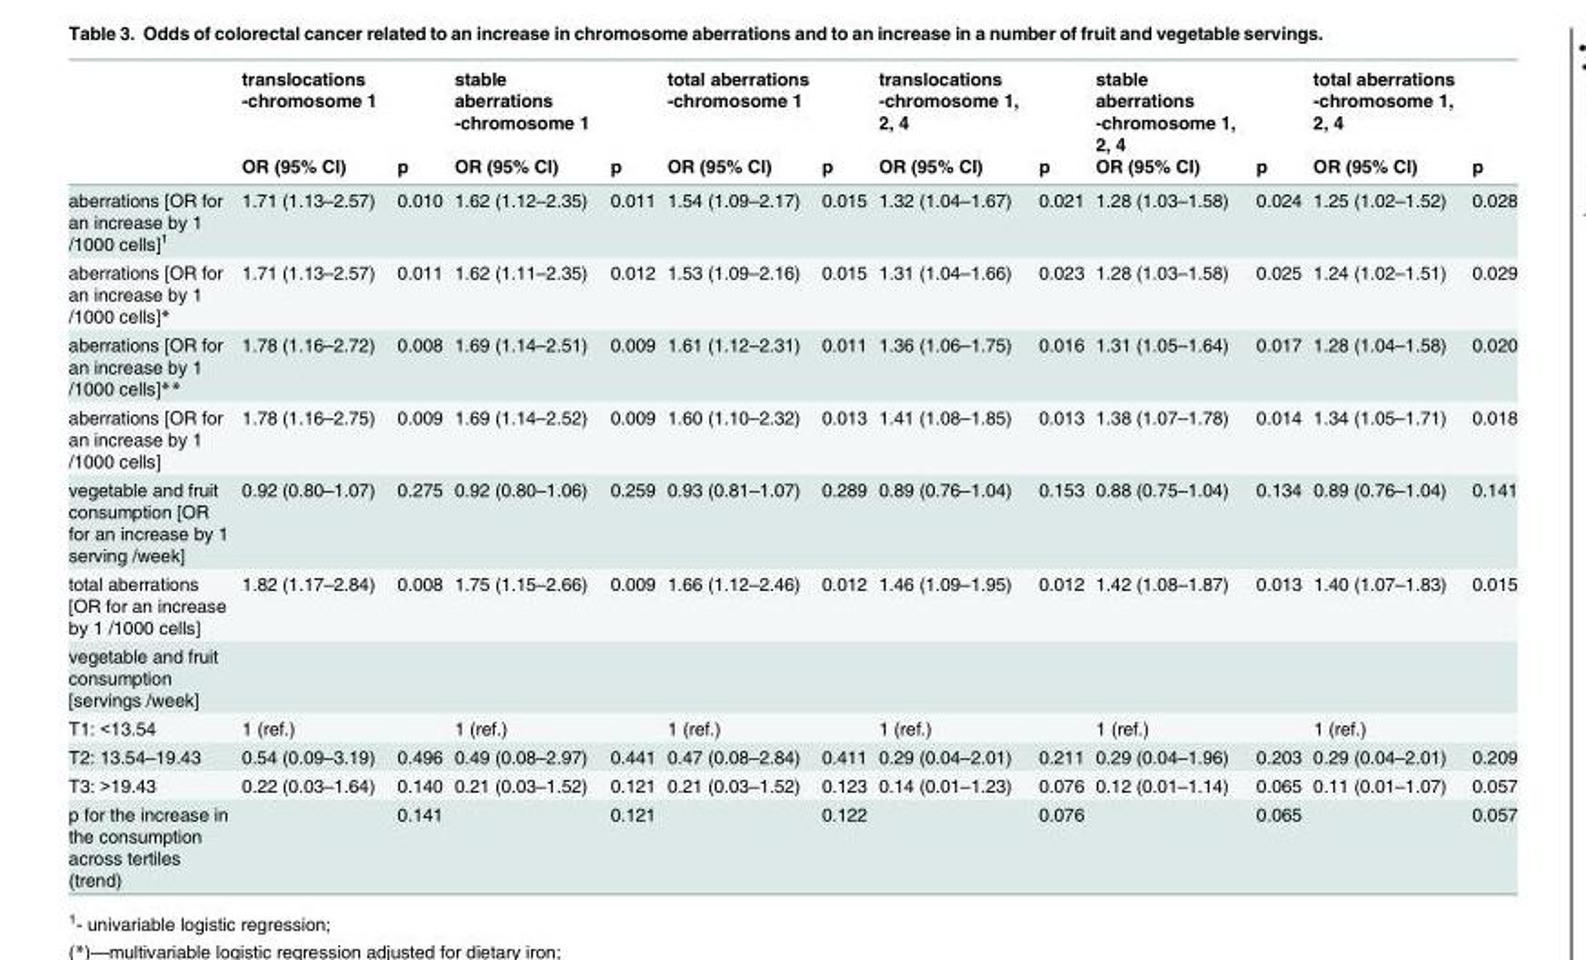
<table><thead><tr><td rowspan="2"></td><td rowspan="2">translocations -chromosome 1 OR (95% CI)</td><td rowspan="2">p</td><td rowspan="2">stable aberrations -chromosome 1 OR (95% CI)</td><td rowspan="2">p</td><td rowspan="2">total aberrations -chromosome 1 OR (95% CI)</td><td rowspan="2">p</td><td rowspan="2">translocations -chromosome 1, 2, 4 OR (95% CI)</td><td rowspan="2">p</td><td rowspan="2">stable aberrations -chromosome 1, 2, 4 OR (95% CI)</td><td rowspan="2">p</td><td rowspan="2">total aberrations -chromosome 1, 2, 4 OR (95% CI)</td><td rowspan="2">p</td></tr><tr></tr></thead><tbody><tr><td>aberrations [OR for an increase by 1 /1000 cells]<sup>1</sup></td><td>1.71 (1.13–2.57)</td><td>0.010</td><td>1.62 (1.12–2.35)</td><td>0.011</td><td>1.54 (1.09–2.17)</td><td>0.015</td><td>1.32 (1.04–1.67)</td><td>0.021</td><td>1.28 (1.03–1.58)</td><td>0.024</td><td>1.25 (1.02–1.52)</td><td>0.028</td></tr><tr><td>aberrations [OR for an increase by 1 /1000 cells]*</td><td>1.71 (1.13–2.57)</td><td>0.011</td><td>1.62 (1.11–2.35)</td><td>0.012</td><td>1.53 (1.09–2.16)</td><td>0.015</td><td>1.31 (1.04–1.66)</td><td>0.023</td><td>1.28 (1.03–1.58)</td><td>0.025</td><td>1.24 (1.02–1.51)</td><td>0.029</td></tr><tr><td>aberrations [OR for an increase by 1 /1000 cells]**</td><td>1.78 (1.16–2.72)</td><td>0.008</td><td>1.69 (1.14–2.51)</td><td>0.009</td><td>1.61 (1.12–2.31)</td><td>0.011</td><td>1.36 (1.06–1.75)</td><td>0.016</td><td>1.31 (1.05–1.64)</td><td>0.017</td><td>1.28 (1.04–1.58)</td><td>0.020</td></tr><tr><td>aberrations [OR for an increase by 1 /1000 cells]</td><td>1.78 (1.16–2.75)</td><td>0.009</td><td>1.69 (1.14–2.52)</td><td>0.009</td><td>1.60 (1.10–2.32)</td><td>0.013</td><td>1.41 (1.08–1.85)</td><td>0.013</td><td>1.38 (1.07–1.78)</td><td>0.014</td><td>1.34 (1.05–1.71)</td><td>0.018</td></tr><tr><td>vegetable and fruit consumption [OR for an increase by 1 serving /week]</td><td>0.92 (0.80–1.07)</td><td>0.275</td><td>0.92 (0.80–1.06)</td><td>0.259</td><td>0.93 (0.81–1.07)</td><td>0.289</td><td>0.89 (0.76–1.04)</td><td>0.153</td><td>0.88 (0.75–1.04)</td><td>0.134</td><td>0.89 (0.76–1.04)</td><td>0.141</td></tr><tr><td>total aberrations [OR for an increase by 1 /1000 cells]</td><td>1.82 (1.17–2.84)</td><td>0.008</td><td>1.75 (1.15–2.66)</td><td>0.009</td><td>1.66 (1.12–2.46)</td><td>0.012</td><td>1.46 (1.09–1.95)</td><td>0.012</td><td>1.42 (1.08–1.87)</td><td>0.013</td><td>1.40 (1.07–1.83)</td><td>0.015</td></tr><tr><td colspan="13">vegetable and fruit consumption [servings /week]</td></tr><tr><td>T1: &lt;13.54</td><td>1 (ref.)</td><td></td><td>1 (ref.)</td><td></td><td>1 (ref.)</td><td></td><td>1 (ref.)</td><td></td><td>1 (ref.)</td><td></td><td>1 (ref.)</td><td></td></tr><tr><td>T2: 13.54–19.43</td><td>0.54 (0.09–3.19)</td><td>0.496</td><td>0.49 (0.08–2.97)</td><td>0.441</td><td>0.47 (0.08–2.84)</td><td>0.411</td><td>0.29 (0.04–2.01)</td><td>0.211</td><td>0.29 (0.04–1.96)</td><td>0.203</td><td>0.29 (0.04–2.01)</td><td>0.209</td></tr><tr><td>T3: &gt;19.43</td><td>0.22 (0.03–1.64)</td><td>0.140</td><td>0.21 (0.03–1.52)</td><td>0.121</td><td>0.21 (0.03–1.52)</td><td>0.123</td><td>0.14 (0.01–1.23)</td><td>0.076</td><td>0.12 (0.01–1.14)</td><td>0.065</td><td>0.11 (0.01–1.07)</td><td>0.057</td></tr><tr><td>p for the increase in the consumption across tertiles (trend)</td><td></td><td>0.141</td><td></td><td>0.121</td><td></td><td>0.122</td><td></td><td>0.076</td><td></td><td>0.065</td><td></td><td>0.057</td></tr></tbody></table>